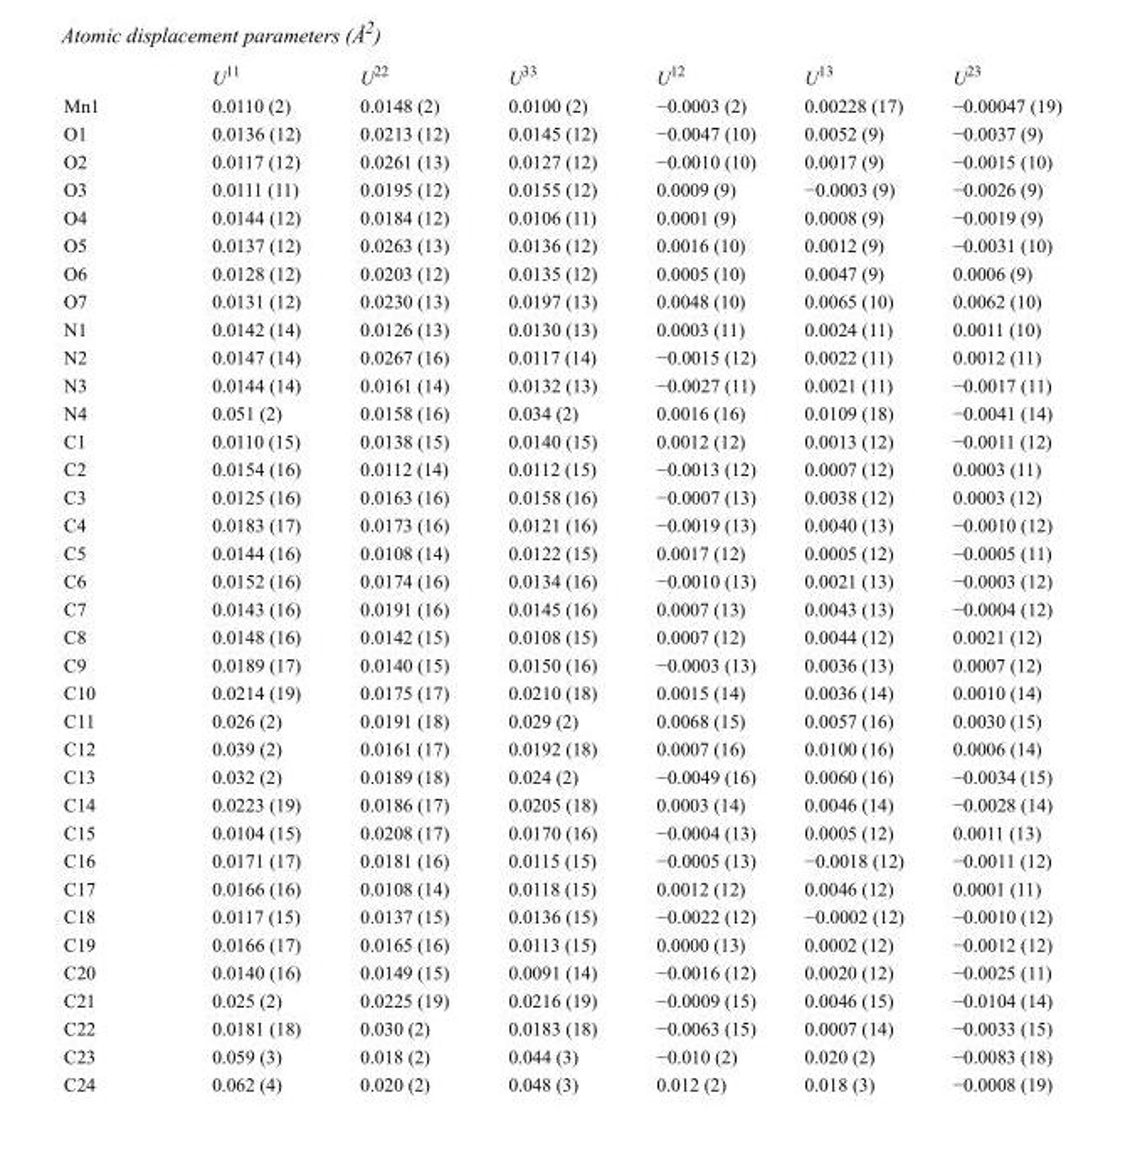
<table><thead><tr><td></td><td>U<sup>11</sup></td><td>U<sup>22</sup></td><td>U<sup>33</sup></td><td>U<sup>12</sup></td><td>U<sup>13</sup></td><td>U<sup>23</sup></td></tr></thead><tbody><tr><td>Mn1</td><td>0.0110 (2)</td><td>0.0148 (2)</td><td>0.0100 (2)</td><td>−0.0003 (2)</td><td>0.00228 (17)</td><td>−0.00047 (19)</td></tr><tr><td>O1</td><td>0.0136 (12)</td><td>0.0213 (12)</td><td>0.0145 (12)</td><td>−0.0047 (10)</td><td>0.0052 (9)</td><td>−0.0037 (9)</td></tr><tr><td>O2</td><td>0.0117 (12)</td><td>0.0261 (13)</td><td>0.0127 (12)</td><td>−0.0010 (10)</td><td>0.0017 (9)</td><td>−0.0015 (10)</td></tr><tr><td>O3</td><td>0.0111 (11)</td><td>0.0195 (12)</td><td>0.0155 (12)</td><td>0.0009 (9)</td><td>−0.0003 (9)</td><td>−0.0026 (9)</td></tr><tr><td>O4</td><td>0.0144 (12)</td><td>0.0184 (12)</td><td>0.0106 (11)</td><td>0.0001 (9)</td><td>0.0008 (9)</td><td>−0.0019 (9)</td></tr><tr><td>O5</td><td>0.0137 (12)</td><td>0.0263 (13)</td><td>0.0136 (12)</td><td>0.0016 (10)</td><td>0.0012 (9)</td><td>−0.0031 (10)</td></tr><tr><td>O6</td><td>0.0128 (12)</td><td>0.0203 (12)</td><td>0.0135 (12)</td><td>0.0005 (10)</td><td>0.0047 (9)</td><td>0.0006 (9)</td></tr><tr><td>O7</td><td>0.0131 (12)</td><td>0.0230 (13)</td><td>0.0197 (13)</td><td>0.0048 (10)</td><td>0.0065 (10)</td><td>0.0062 (10)</td></tr><tr><td>N1</td><td>0.0142 (14)</td><td>0.0126 (13)</td><td>0.0130 (13)</td><td>0.0003 (11)</td><td>0.0024 (11)</td><td>0.0011 (10)</td></tr><tr><td>N2</td><td>0.0147 (14)</td><td>0.0267 (16)</td><td>0.0117 (14)</td><td>−0.0015 (12)</td><td>0.0022 (11)</td><td>0.0012 (11)</td></tr><tr><td>N3</td><td>0.0144 (14)</td><td>0.0161 (14)</td><td>0.0132 (13)</td><td>−0.0027 (11)</td><td>0.0021 (11)</td><td>−0.0017 (11)</td></tr><tr><td>N4</td><td>0.051 (2)</td><td>0.0158 (16)</td><td>0.034 (2)</td><td>0.0016 (16)</td><td>0.0109 (18)</td><td>−0.0041 (14)</td></tr><tr><td>C1</td><td>0.0110 (15)</td><td>0.0138 (15)</td><td>0.0140 (15)</td><td>0.0012 (12)</td><td>0.0013 (12)</td><td>−0.0011 (12)</td></tr><tr><td>C2</td><td>0.0154 (16)</td><td>0.0112 (14)</td><td>0.0112 (15)</td><td>−0.0013 (12)</td><td>0.0007 (12)</td><td>0.0003 (11)</td></tr><tr><td>C3</td><td>0.0125 (16)</td><td>0.0163 (16)</td><td>0.0158 (16)</td><td>−0.0007 (13)</td><td>0.0038 (12)</td><td>0.0003 (12)</td></tr><tr><td>C4</td><td>0.0183 (17)</td><td>0.0173 (16)</td><td>0.0121 (16)</td><td>−0.0019 (13)</td><td>0.0040 (13)</td><td>−0.0010 (12)</td></tr><tr><td>C5</td><td>0.0144 (16)</td><td>0.0108 (14)</td><td>0.0122 (15)</td><td>0.0017 (12)</td><td>0.0005 (12)</td><td>−0.0005 (11)</td></tr><tr><td>C6</td><td>0.0152 (16)</td><td>0.0174 (16)</td><td>0.0134 (16)</td><td>−0.0010 (13)</td><td>0.0021 (13)</td><td>−0.0003 (12)</td></tr><tr><td>C7</td><td>0.0143 (16)</td><td>0.0191 (16)</td><td>0.0145 (16)</td><td>0.0007 (13)</td><td>0.0043 (13)</td><td>−0.0004 (12)</td></tr><tr><td>C8</td><td>0.0148 (16)</td><td>0.0142 (15)</td><td>0.0108 (15)</td><td>0.0007 (12)</td><td>0.0044 (12)</td><td>0.0021 (12)</td></tr><tr><td>C9</td><td>0.0189 (17)</td><td>0.0140 (15)</td><td>0.0150 (16)</td><td>−0.0003 (13)</td><td>0.0036 (13)</td><td>0.0007 (12)</td></tr><tr><td>C10</td><td>0.0214 (19)</td><td>0.0175 (17)</td><td>0.0210 (18)</td><td>0.0015 (14)</td><td>0.0036 (14)</td><td>0.0010 (14)</td></tr><tr><td>C11</td><td>0.026 (2)</td><td>0.0191 (18)</td><td>0.029 (2)</td><td>0.0068 (15)</td><td>0.0057 (16)</td><td>0.0030 (15)</td></tr><tr><td>C12</td><td>0.039 (2)</td><td>0.0161 (17)</td><td>0.0192 (18)</td><td>0.0007 (16)</td><td>0.0100 (16)</td><td>0.0006 (14)</td></tr><tr><td>C13</td><td>0.032 (2)</td><td>0.0189 (18)</td><td>0.024 (2)</td><td>−0.0049 (16)</td><td>0.0060 (16)</td><td>−0.0034 (15)</td></tr><tr><td>C14</td><td>0.0223 (19)</td><td>0.0186 (17)</td><td>0.0205 (18)</td><td>0.0003 (14)</td><td>0.0046 (14)</td><td>−0.0028 (14)</td></tr><tr><td>C15</td><td>0.0104 (15)</td><td>0.0208 (17)</td><td>0.0170 (16)</td><td>−0.0004 (13)</td><td>0.0005 (12)</td><td>0.0011 (13)</td></tr><tr><td>C16</td><td>0.0171 (17)</td><td>0.0181 (16)</td><td>0.0115 (15)</td><td>−0.0005 (13)</td><td>−0.0018 (12)</td><td>−0.0011 (12)</td></tr><tr><td>C17</td><td>0.0166 (16)</td><td>0.0108 (14)</td><td>0.0118 (15)</td><td>0.0012 (12)</td><td>0.0046 (12)</td><td>0.0001 (11)</td></tr><tr><td>C18</td><td>0.0117 (15)</td><td>0.0137 (15)</td><td>0.0136 (15)</td><td>−0.0022 (12)</td><td>−0.0002 (12)</td><td>−0.0010 (12)</td></tr><tr><td>C19</td><td>0.0166 (17)</td><td>0.0165 (16)</td><td>0.0113 (15)</td><td>0.0000 (13)</td><td>0.0002 (12)</td><td>−0.0012 (12)</td></tr><tr><td>C20</td><td>0.0140 (16)</td><td>0.0149 (15)</td><td>0.0091 (14)</td><td>−0.0016 (12)</td><td>0.0020 (12)</td><td>−0.0025 (11)</td></tr><tr><td>C21</td><td>0.025 (2)</td><td>0.0225 (19)</td><td>0.0216 (19)</td><td>−0.0009 (15)</td><td>0.0046 (15)</td><td>−0.0104 (14)</td></tr><tr><td>C22</td><td>0.0181 (18)</td><td>0.030 (2)</td><td>0.0183 (18)</td><td>−0.0063 (15)</td><td>0.0007 (14)</td><td>−0.0033 (15)</td></tr><tr><td>C23</td><td>0.059 (3)</td><td>0.018 (2)</td><td>0.044 (3)</td><td>−0.010 (2)</td><td>0.020 (2)</td><td>−0.0083 (18)</td></tr><tr><td>C24</td><td>0.062 (4)</td><td>0.020 (2)</td><td>0.048 (3)</td><td>0.012 (2)</td><td>0.018 (3)</td><td>−0.0008 (19)</td></tr></tbody></table>